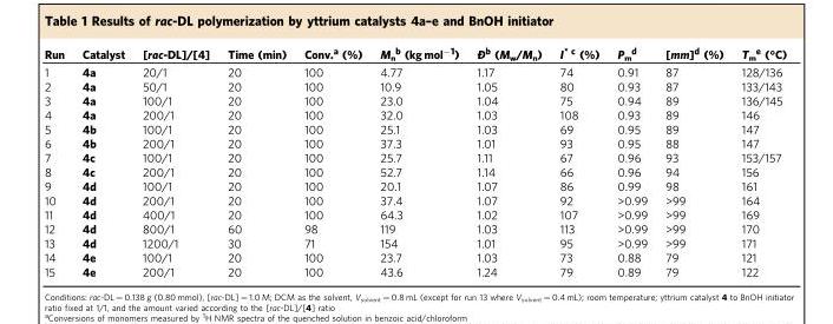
<table><thead><tr><td>Run</td><td>Catalyst</td><td>[rac-DL]/[4]</td><td>Time (min)</td><td>Conv.<sup>a</sup> (%)</td><td>M<sub>n</sub><sup>b</sup> (kg mol<sup>−1</sup>)</td><td>Ð<sup>b</sup> (M<sub>w</sub>/M<sub>n</sub>)</td><td>I<sup>* c</sup> (%)</td><td>P<sub>m</sub><sup>d</sup></td><td>[mm]<sup>d</sup> (%)</td><td>T<sub>m</sub><sup>e</sup> (°C)</td></tr></thead><tbody><tr><td>1</td><td>4a</td><td>20/1</td><td>20</td><td>100</td><td>4.77</td><td>1.17</td><td>74</td><td>0.91</td><td>87</td><td>128/136</td></tr><tr><td>2</td><td>4a</td><td>50/1</td><td>20</td><td>100</td><td>10.9</td><td>1.05</td><td>80</td><td>0.93</td><td>87</td><td>133/143</td></tr><tr><td>3</td><td>4a</td><td>100/1</td><td>20</td><td>100</td><td>23.0</td><td>1.04</td><td>75</td><td>0.94</td><td>89</td><td>136/145</td></tr><tr><td>4</td><td>4a</td><td>200/1</td><td>20</td><td>100</td><td>32.0</td><td>1.03</td><td>108</td><td>0.93</td><td>89</td><td>146</td></tr><tr><td>5</td><td>4b</td><td>100/1</td><td>20</td><td>100</td><td>25.1</td><td>1.03</td><td>69</td><td>0.95</td><td>89</td><td>147</td></tr><tr><td>6</td><td>4b</td><td>200/1</td><td>20</td><td>100</td><td>37.3</td><td>1.01</td><td>93</td><td>0.95</td><td>88</td><td>147</td></tr><tr><td>7</td><td>4c</td><td>100/1</td><td>20</td><td>100</td><td>25.7</td><td>1.11</td><td>67</td><td>0.96</td><td>93</td><td>153/157</td></tr><tr><td>8</td><td>4c</td><td>200/1</td><td>20</td><td>100</td><td>52.7</td><td>1.14</td><td>66</td><td>0.96</td><td>94</td><td>156</td></tr><tr><td>9</td><td>4d</td><td>100/1</td><td>20</td><td>100</td><td>20.1</td><td>1.07</td><td>86</td><td>0.99</td><td>98</td><td>161</td></tr><tr><td>10</td><td>4d</td><td>200/1</td><td>20</td><td>100</td><td>37.4</td><td>1.07</td><td>92</td><td>&gt;0.99</td><td>&gt;99</td><td>164</td></tr><tr><td>11</td><td>4d</td><td>400/1</td><td>20</td><td>100</td><td>64.3</td><td>1.02</td><td>107</td><td>&gt;0.99</td><td>&gt;99</td><td>169</td></tr><tr><td>12</td><td>4d</td><td>800/1</td><td>60</td><td>98</td><td>119</td><td>1.03</td><td>113</td><td>&gt;0.99</td><td>&gt;99</td><td>170</td></tr><tr><td>13</td><td>4d</td><td>1200/1</td><td>30</td><td>71</td><td>154</td><td>1.01</td><td>95</td><td>&gt;0.99</td><td>&gt;99</td><td>171</td></tr><tr><td>14</td><td>4e</td><td>100/1</td><td>20</td><td>100</td><td>23.7</td><td>1.03</td><td>73</td><td>0.88</td><td>79</td><td>121</td></tr><tr><td>15</td><td>4e</td><td>200/1</td><td>20</td><td>100</td><td>43.6</td><td>1.24</td><td>79</td><td>0.89</td><td>79</td><td>122</td></tr></tbody></table>